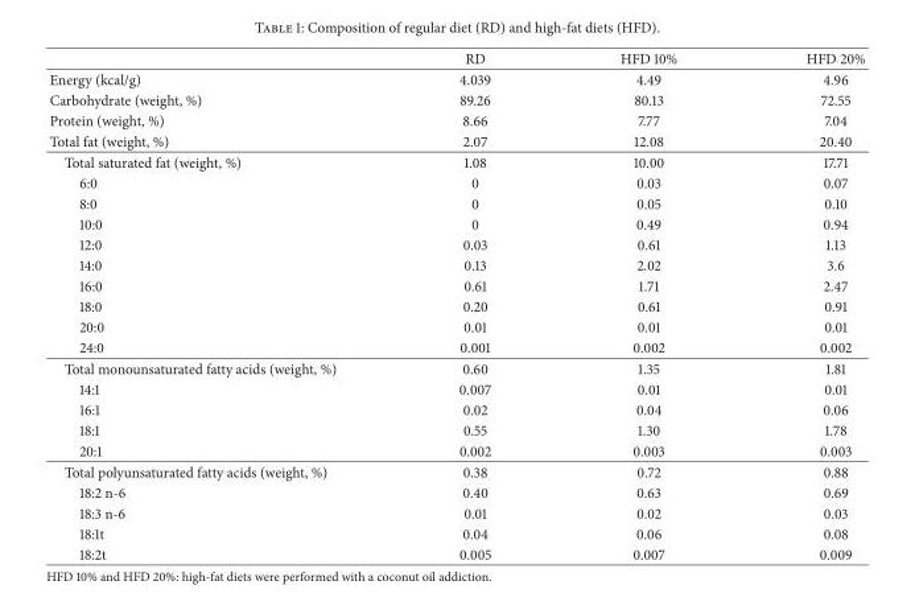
<table><thead><tr><td></td><td>RD</td><td>HFD 10%</td><td>HFD 20%</td></tr></thead><tbody><tr><td>Energy (kcal/g)</td><td>4.039</td><td>4.49</td><td>4.96</td></tr><tr><td>Carbohydrate (weight, %)</td><td>89.26</td><td>80.13</td><td>72.55</td></tr><tr><td>Protein (weight, %)</td><td>8.66</td><td>7.77</td><td>7.04</td></tr><tr><td>Total fat (weight, %)</td><td>2.07</td><td>12.08</td><td>20.40</td></tr><tr><td>Total saturated fat (weight, %)</td><td>1.08</td><td>10.00</td><td>17.71</td></tr><tr><td>6:0</td><td>0</td><td>0.03</td><td>0.07</td></tr><tr><td>8:0</td><td>0</td><td>0.05</td><td>0.10</td></tr><tr><td>10:0</td><td>0</td><td>0.49</td><td>0.94</td></tr><tr><td>12:0</td><td>0.03</td><td>0.61</td><td>1.13</td></tr><tr><td>14:0</td><td>0.13</td><td>2.02</td><td>3.6</td></tr><tr><td>16:0</td><td>0.61</td><td>1.71</td><td>2.47</td></tr><tr><td>18:0</td><td>0.20</td><td>0.61</td><td>0.91</td></tr><tr><td>20:0</td><td>0.01</td><td>0.01</td><td>0.01</td></tr><tr><td>24:0</td><td>0.001</td><td>0.002</td><td>0.002</td></tr><tr><td>Total monounsaturated fatty acids (weight, %)</td><td>0.60</td><td>1.35</td><td>1.81</td></tr><tr><td>14:1</td><td>0.007</td><td>0.01</td><td>0.01</td></tr><tr><td>16:1</td><td>0.02</td><td>0.04</td><td>0.06</td></tr><tr><td>18:1</td><td>0.55</td><td>1.30</td><td>1.78</td></tr><tr><td>20:1</td><td>0.002</td><td>0.003</td><td>0.003</td></tr><tr><td>Total polyunsaturated fatty acids (weight, %)</td><td>0.38</td><td>0.72</td><td>0.88</td></tr><tr><td>18:2 n-6</td><td>0.40</td><td>0.63</td><td>0.69</td></tr><tr><td>18:3 n-6</td><td>0.01</td><td>0.02</td><td>0.03</td></tr><tr><td>18:1t</td><td>0.04</td><td>0.06</td><td>0.08</td></tr><tr><td>18:2t</td><td>0.005</td><td>0.007</td><td>0.009</td></tr></tbody></table>